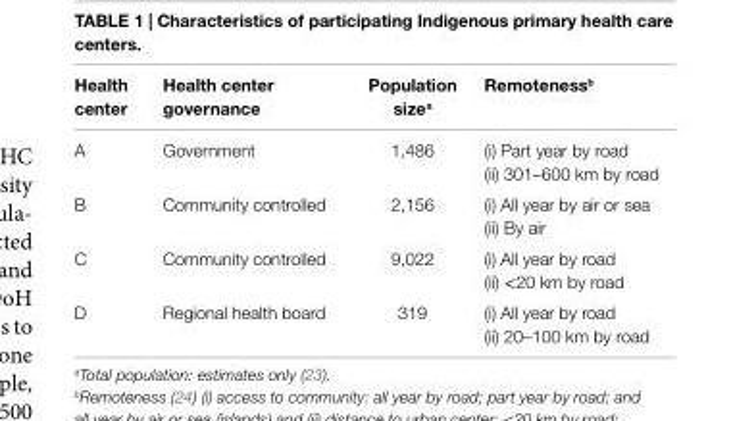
<table><thead><tr><td>health center</td><td>health center governance</td><td>Population size<sup>a</sup></td><td>remoteness<sup>b</sup></td></tr></thead><tbody><tr><td rowspan="2">A</td><td rowspan="2">Government</td><td rowspan="2">1,486</td><td>(i) Part year by road</td></tr><tr><td>(ii) 301–600 km by road</td></tr><tr><td rowspan="2">B</td><td rowspan="2">Community controlled</td><td rowspan="2">2,156</td><td>(i) All year by air or sea</td></tr><tr><td>(ii) By air</td></tr><tr><td rowspan="2">C</td><td rowspan="2">Community controlled</td><td rowspan="2">9,022</td><td>(i) All year by road</td></tr><tr><td>(ii) &lt;20 km by road</td></tr><tr><td rowspan="2">D</td><td rowspan="2">Regional health board</td><td rowspan="2">319</td><td>(i) All year by road</td></tr><tr><td>(ii) 20–100 km by road</td></tr></tbody></table>